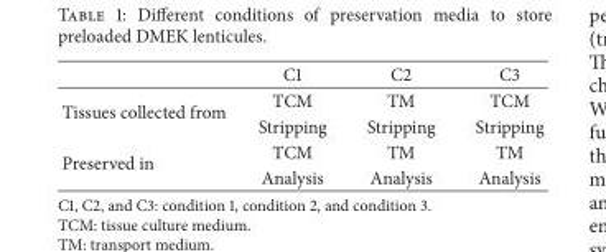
<table><thead><tr><td></td><td>C1</td><td>C2</td><td>C3</td></tr></thead><tbody><tr><td rowspan="2">Tissues collected from</td><td>TCM</td><td>TM</td><td>TCM</td></tr><tr><td>Stripping</td><td>Stripping</td><td>Stripping</td></tr><tr><td rowspan="2">Preserved in</td><td>TCM</td><td>TM</td><td>TM</td></tr><tr><td>Analysis</td><td>Analysis</td><td>Analysis</td></tr></tbody></table>